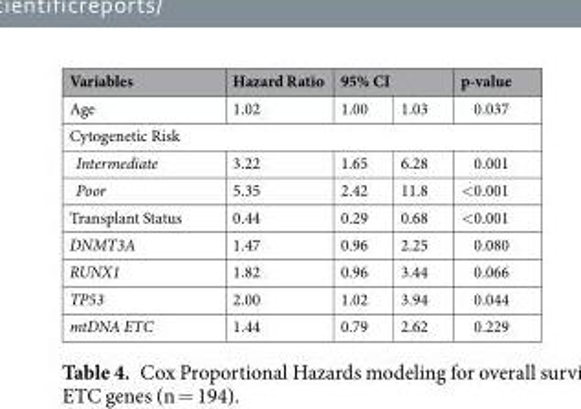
<table><thead><tr><td rowspan="2">Variables Age</td><td rowspan="2">Hazard Ratio 1.02</td><td colspan="2">95% CI</td><td rowspan="2">p-value 0.037</td></tr><tr><td>1.00</td><td>1.03</td></tr></thead><tbody><tr><td colspan="5">Cytogenetic Risk</td></tr><tr><td>Intermediate</td><td>3.22</td><td>1.65</td><td>6.28</td><td>0.001</td></tr><tr><td>Poor</td><td>5.35</td><td>2.42</td><td>11.8</td><td>&lt;0.001</td></tr><tr><td>Transplant Status</td><td>0.44</td><td>0.29</td><td>0.68</td><td>&lt;0.001</td></tr><tr><td>DNMT3A</td><td>1.47</td><td>0.96</td><td>2.25</td><td>0.080</td></tr><tr><td>RUNX1</td><td>1.82</td><td>0.96</td><td>3.44</td><td>0.066</td></tr><tr><td>TP53</td><td>2.00</td><td>1.02</td><td>3.94</td><td>0.044</td></tr><tr><td>mtDNA ETC</td><td>1.44</td><td>0.79</td><td>2.62</td><td>0.229</td></tr></tbody></table>